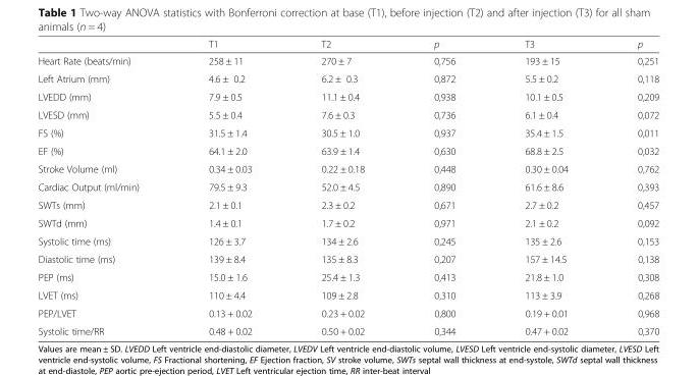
<table><thead><tr><td></td><td>T1</td><td>T2</td><td>p</td><td>T3</td><td>p</td></tr></thead><tbody><tr><td>Heart Rate (beats/min)</td><td>258 ± 11</td><td>270 ± 7</td><td>0,756</td><td>193 ± 15</td><td>0,251</td></tr><tr><td>Left Atrium (mm)</td><td>4.6 ± 0.2</td><td>6.2 ± 0.3</td><td>0,872</td><td>5.5 ± 0.2</td><td>0,118</td></tr><tr><td>LVEDD (mm)</td><td>7.9 ± 0.5</td><td>11.1 ± 0.4</td><td>0,938</td><td>10.1 ± 0.5</td><td>0,209</td></tr><tr><td>LVESD (mm)</td><td>5.5 ± 0.4</td><td>7.6 ± 0.3</td><td>0,736</td><td>6.1 ± 0.4</td><td>0,072</td></tr><tr><td>FS (%)</td><td>31.5 ± 1.4</td><td>30.5 ± 1.0</td><td>0,937</td><td>35.4 ± 1.5</td><td>0,011</td></tr><tr><td>EF (%)</td><td>64.1 ± 2.0</td><td>63.9 ± 1.4</td><td>0,630</td><td>68.8 ± 2.5</td><td>0,032</td></tr><tr><td>Stroke Volume (ml)</td><td>0.34 ± 0.03</td><td>0.22 ± 0.18</td><td>0,448</td><td>0.30 ± 0.04</td><td>0,762</td></tr><tr><td>Cardiac Output (ml/min)</td><td>79.5 ± 9.3</td><td>52.0 ± 4.5</td><td>0,890</td><td>61.6 ± 8.6</td><td>0,393</td></tr><tr><td>SWTs (mm)</td><td>2.1 ± 0.1</td><td>2.3 ± 0.2</td><td>0,671</td><td>2.7 ± 0.2</td><td>0,457</td></tr><tr><td>SWTd (mm)</td><td>1.4 ± 0.1</td><td>1.7 ± 0.2</td><td>0,971</td><td>2.1 ± 0.2</td><td>0,092</td></tr><tr><td>Systolic time (ms)</td><td>126 ± 3.7</td><td>134 ± 2.6</td><td>0,245</td><td>135 ± 2.6</td><td>0,153</td></tr><tr><td>Diastolic time (ms)</td><td>139 ± 8.4</td><td>135 ± 8.3</td><td>0,207</td><td>157 ± 14.5</td><td>0,138</td></tr><tr><td>PEP (ms)</td><td>15.0 ± 1.6</td><td>25.4 ± 1.3</td><td>0,413</td><td>21.8 ± 1.0</td><td>0,308</td></tr><tr><td>LVET (ms)</td><td>110 ± 4.4</td><td>109 ± 2.8</td><td>0,310</td><td>113 ± 3.9</td><td>0,268</td></tr><tr><td>PEP/LVET</td><td>0.13 + 0.02</td><td>0.23 + 0.02</td><td>0,800</td><td>0.19 + 0.01</td><td>0,968</td></tr><tr><td>Systolic time/RR</td><td>0.48 + 0.02</td><td>0.50 + 0.02</td><td>0,344</td><td>0.47 + 0.02</td><td>0,370</td></tr></tbody></table>